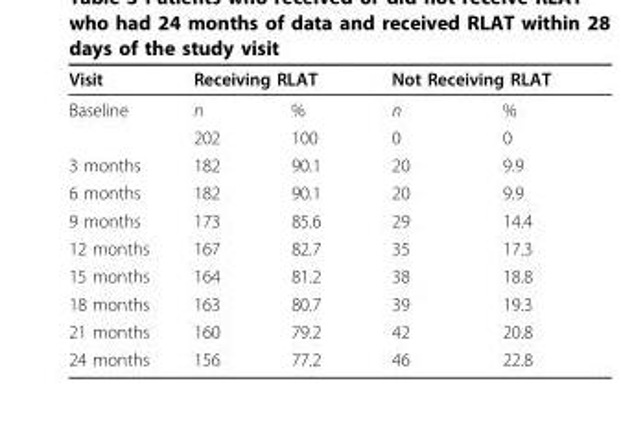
<table><thead><tr><td rowspan="2">Visit Baseline</td><td colspan="2">Receiving RLAT</td><td colspan="2">Not Receiving RLAT</td></tr><tr><td>n</td><td>%</td><td>n</td><td>%</td></tr></thead><tbody><tr><td></td><td>202</td><td>100</td><td>0</td><td>0</td></tr><tr><td>3 months</td><td>182</td><td>90.1</td><td>20</td><td>9.9</td></tr><tr><td>6 months</td><td>182</td><td>90.1</td><td>20</td><td>9.9</td></tr><tr><td>9 months</td><td>173</td><td>85.6</td><td>29</td><td>14.4</td></tr><tr><td>12 months</td><td>167</td><td>82.7</td><td>35</td><td>17.3</td></tr><tr><td>15 months</td><td>164</td><td>81.2</td><td>38</td><td>18.8</td></tr><tr><td>18 months</td><td>163</td><td>80.7</td><td>39</td><td>19.3</td></tr><tr><td>21 months</td><td>160</td><td>79.2</td><td>42</td><td>20.8</td></tr><tr><td>24 months</td><td>156</td><td>77.2</td><td>46</td><td>22.8</td></tr></tbody></table>